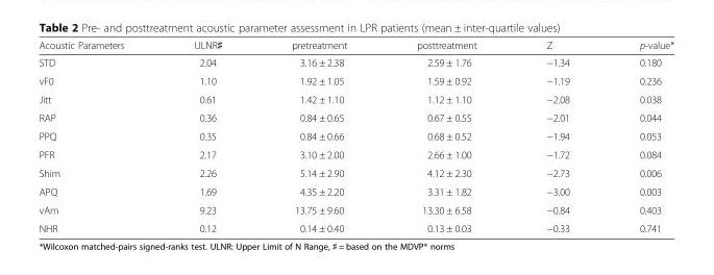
<table><thead><tr><td>Acoustic Parameters</td><td>ULNR♯</td><td>pretreatment</td><td>posttreatment</td><td>Z</td><td>p-value*</td></tr></thead><tbody><tr><td>STD</td><td>2.04</td><td>3.16 ± 2.38</td><td>2.59 ± 1.76</td><td>−1.34</td><td>0.180</td></tr><tr><td>vF0</td><td>1.10</td><td>1.92 ± 1.05</td><td>1.59 ± 0.92</td><td>−1.19</td><td>0.236</td></tr><tr><td>Jitt</td><td>0.61</td><td>1.42 ± 1.10</td><td>1.12 ± 1.10</td><td>−2.08</td><td>0.038</td></tr><tr><td>RAP</td><td>0.36</td><td>0.84 ± 0.65</td><td>0.67 ± 0.55</td><td>−2.01</td><td>0.044</td></tr><tr><td>PPQ</td><td>0.35</td><td>0.84 ± 0.66</td><td>0.68 ± 0.52</td><td>−1.94</td><td>0.053</td></tr><tr><td>PFR</td><td>2.17</td><td>3.10 ± 2.00</td><td>2.66 ± 1.00</td><td>−1.72</td><td>0.084</td></tr><tr><td>Shim</td><td>2.26</td><td>5.14 ± 2.90</td><td>4.12 ± 2.30</td><td>−2.73</td><td>0.006</td></tr><tr><td>APQ</td><td>1.69</td><td>4.35 ± 2.20</td><td>3.31 ± 1.82</td><td>−3.00</td><td>0.003</td></tr><tr><td>vAm</td><td>9.23</td><td>13.75 ± 9.60</td><td>13.30 ± 6.58</td><td>−0.84</td><td>0.403</td></tr><tr><td>NHR</td><td>0.12</td><td>0.14 ± 0.40</td><td>0.13 ± 0.03</td><td>−0.33</td><td>0.741</td></tr></tbody></table>